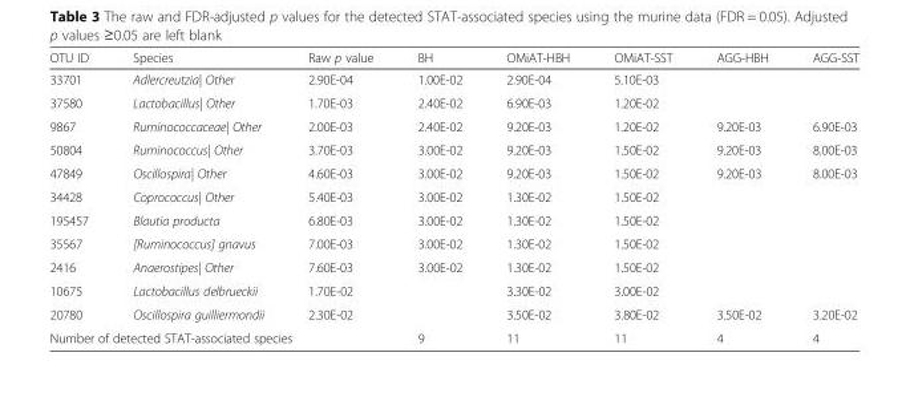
<table><thead><tr><td>OTU ID</td><td>Species</td><td>Raw p value</td><td>BH</td><td>OMiAT-HBH</td><td>OMiAT-SST</td><td>AGG-HBH</td><td>AGG-SST</td></tr></thead><tbody><tr><td>33701</td><td>Adlercreutzia| Other</td><td>2.90E-04</td><td>1.00E-02</td><td>2.90E-04</td><td>5.10E-03</td><td></td><td></td></tr><tr><td>37580</td><td>Lactobacillus| Other</td><td>1.70E-03</td><td>2.40E-02</td><td>6.90E-03</td><td>1.20E-02</td><td></td><td></td></tr><tr><td>9867</td><td>Ruminococcaceae| Other</td><td>2.00E-03</td><td>2.40E-02</td><td>9.20E-03</td><td>1.20E-02</td><td>9.20E-03</td><td>6.90E-03</td></tr><tr><td>50804</td><td>Ruminococcus| Other</td><td>3.70E-03</td><td>3.00E-02</td><td>9.20E-03</td><td>1.50E-02</td><td>9.20E-03</td><td>8.00E-03</td></tr><tr><td>47849</td><td>Oscillospira| Other</td><td>4.60E-03</td><td>3.00E-02</td><td>9.20E-03</td><td>1.50E-02</td><td>9.20E-03</td><td>8.00E-03</td></tr><tr><td>34428</td><td>Coprococcus| Other</td><td>5.40E-03</td><td>3.00E-02</td><td>1.30E-02</td><td>1.50E-02</td><td></td><td></td></tr><tr><td>195457</td><td>Blautia producta</td><td>6.80E-03</td><td>3.00E-02</td><td>1.30E-02</td><td>1.50E-02</td><td></td><td></td></tr><tr><td>35567</td><td>[Ruminococcus] gnavus</td><td>7.00E-03</td><td>3.00E-02</td><td>1.30E-02</td><td>1.50E-02</td><td></td><td></td></tr><tr><td>2416</td><td>Anaerostipes| Other</td><td>7.60E-03</td><td>3.00E-02</td><td>1.30E-02</td><td>1.50E-02</td><td></td><td></td></tr><tr><td>10675</td><td>Lactobacillus delbrueckii</td><td>1.70E-02</td><td></td><td>3.30E-02</td><td>3.00E-02</td><td></td><td></td></tr><tr><td>20780</td><td>Oscillospira guilliermondii</td><td>2.30E-02</td><td></td><td>3.50E-02</td><td>3.80E-02</td><td>3.50E-02</td><td>3.20E-02</td></tr><tr><td colspan="3">Number of detected STAT-associated species</td><td>9</td><td>11</td><td>11</td><td>4</td><td>4</td></tr></tbody></table>